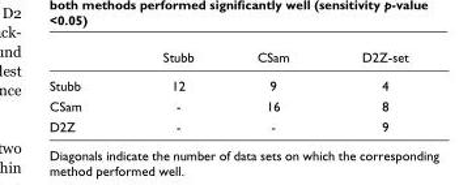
<table><thead><tr><td></td><td>Stubb</td><td>CSam</td><td>D2Z-set</td></tr></thead><tbody><tr><td>Stubb</td><td>12</td><td>9</td><td>4</td></tr><tr><td>CSam</td><td>-</td><td>16</td><td>8</td></tr><tr><td>D2Z</td><td>-</td><td>-</td><td>9</td></tr></tbody></table>